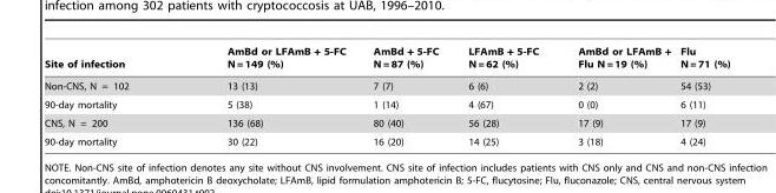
<table><thead><tr><td>Site of infection</td><td>AmBd or LFAmB + 5-FC N = 149 (%)</td><td>AmBd + 5-FC N = 87 (%)</td><td>LFAmB + 5-FC N = 62 (%)</td><td>AmBd or LFAmB + Flu N = 19 (%)</td><td>Flu N = 71 (%)</td></tr></thead><tbody><tr><td>Non-CNS, N = 102</td><td>13 (13)</td><td>7 (7)</td><td>6 (6)</td><td>2 (2)</td><td>54 (53)</td></tr><tr><td>90-day mortality</td><td>5 (38)</td><td>1 (14)</td><td>4 (67)</td><td>0 (0)</td><td>6 (11)</td></tr><tr><td>CNS, N = 200</td><td>136 (68)</td><td>80 (40)</td><td>56 (28)</td><td>17 (9)</td><td>17 (9)</td></tr><tr><td>90-day mortality</td><td>30 (22)</td><td>16 (20)</td><td>14 (25)</td><td>3 (18)</td><td>4 (24)</td></tr></tbody></table>